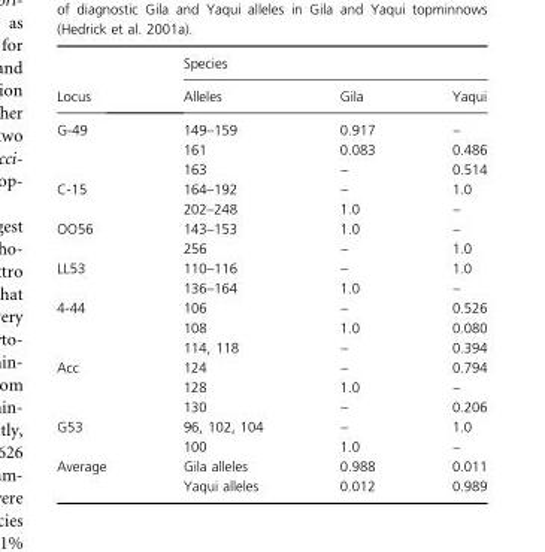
<table><thead><tr><td rowspan="2">Locus</td><td colspan="3">Species</td></tr><tr><td>Alleles</td><td>Gila</td><td>Yaqui</td></tr></thead><tbody><tr><td rowspan="3">G-49</td><td>149–159</td><td>0.917</td><td>–</td></tr><tr><td>161</td><td>0.083</td><td>0.486</td></tr><tr><td>163</td><td>–</td><td>0.514</td></tr><tr><td rowspan="2">C-15</td><td>164–192</td><td>–</td><td>1.0</td></tr><tr><td>202–248</td><td>1.0</td><td>–</td></tr><tr><td rowspan="2">OO56</td><td>143–153</td><td>1.0</td><td>–</td></tr><tr><td>256</td><td>–</td><td>1.0</td></tr><tr><td rowspan="2">LL53</td><td>110–116</td><td>–</td><td>1.0</td></tr><tr><td>136–164</td><td>1.0</td><td>–</td></tr><tr><td rowspan="3">4-44</td><td>106</td><td>–</td><td>0.526</td></tr><tr><td>108</td><td>1.0</td><td>0.080</td></tr><tr><td>114, 118</td><td>–</td><td>0.394</td></tr><tr><td rowspan="3">Acc</td><td>124</td><td>–</td><td>0.794</td></tr><tr><td>128</td><td>1.0</td><td>–</td></tr><tr><td>130</td><td>–</td><td>0.206</td></tr><tr><td rowspan="2">G53</td><td>96, 102, 104</td><td>–</td><td>1.0</td></tr><tr><td>100</td><td>1.0</td><td>–</td></tr><tr><td rowspan="2">Average</td><td>Gila alleles</td><td>0.988</td><td>0.011</td></tr><tr><td>Yaqui alleles</td><td>0.012</td><td>0.989</td></tr></tbody></table>